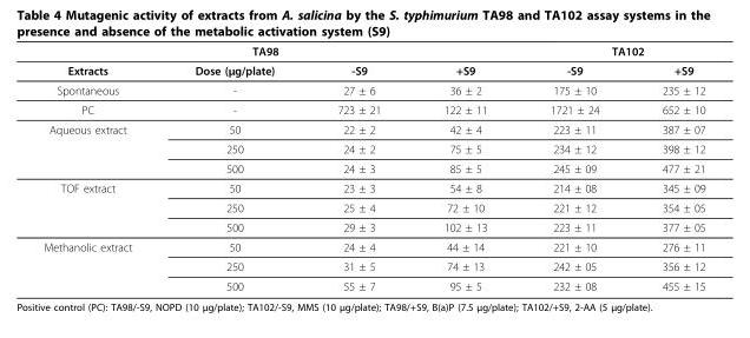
<table><thead><tr><td colspan="4">TA98</td><td colspan="2">TA102</td></tr><tr><td>Extracts</td><td>Dose (μg/plate)</td><td>-S9</td><td>+S9</td><td>-S9</td><td>+S9</td></tr></thead><tbody><tr><td>Spontaneous</td><td>-</td><td>27 ± 6</td><td>36 ± 2</td><td>175 ± 10</td><td>235 ± 12</td></tr><tr><td>PC</td><td>-</td><td>723 ± 21</td><td>122 ± 11</td><td>1721 ± 24</td><td>652 ± 10</td></tr><tr><td rowspan="3">Aqueous extract</td><td>50</td><td>22 ± 2</td><td>42 ± 4</td><td>223 ± 11</td><td>387 ± 07</td></tr><tr><td>250</td><td>24 ± 2</td><td>75 ± 5</td><td>234 ± 12</td><td>398 ± 12</td></tr><tr><td>500</td><td>24 ± 3</td><td>85 ± 5</td><td>245 ± 09</td><td>477 ± 21</td></tr><tr><td rowspan="3">TOF extract</td><td>50</td><td>23 ± 3</td><td>54 ± 8</td><td>214 ± 08</td><td>345 ± 09</td></tr><tr><td>250</td><td>25 ± 4</td><td>72 ± 10</td><td>221 ± 12</td><td>354 ± 05</td></tr><tr><td>500</td><td>29 ± 3</td><td>102 ± 13</td><td>223 ± 11</td><td>377 ± 05</td></tr><tr><td rowspan="3">Methanolic extract</td><td>50</td><td>24 ± 4</td><td>44 ± 14</td><td>221 ± 10</td><td>276 ± 11</td></tr><tr><td>250</td><td>31 ± 5</td><td>74 ± 13</td><td>242 ± 05</td><td>356 ± 12</td></tr><tr><td>500</td><td>55 ± 7</td><td>95 ± 5</td><td>232 ± 08</td><td>455 ± 15</td></tr></tbody></table>